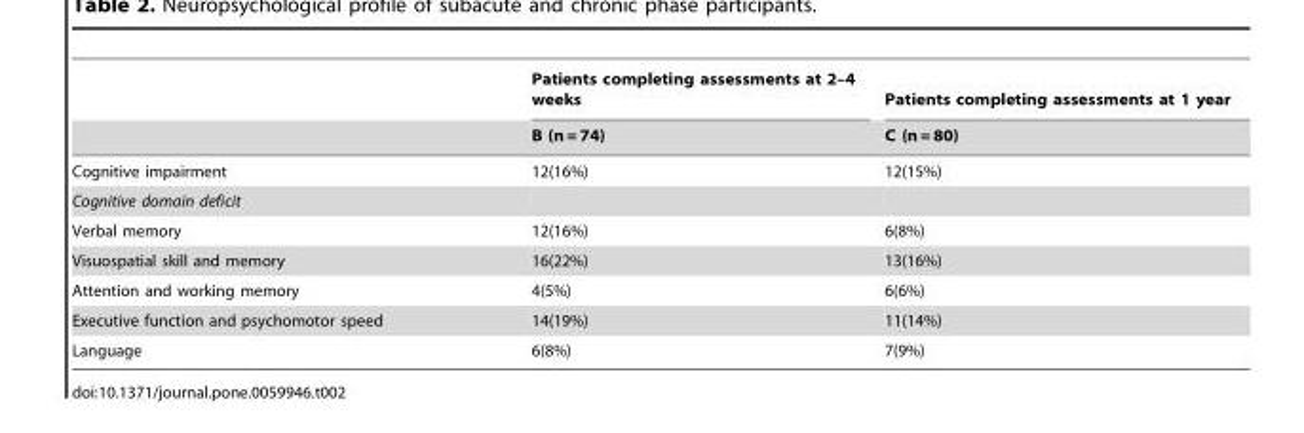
<table><thead><tr><td rowspan="2"></td><td rowspan="2">Patients completing assessments at 2–4 weeks B (n = 74)</td><td rowspan="2">Patients completing assessments at 1 year C (n = 80)</td></tr><tr></tr></thead><tbody><tr><td>Cognitive impairment</td><td>12(16%)</td><td>12(15%)</td></tr><tr><td colspan="3">Cognitive domain deficit</td></tr><tr><td>Verbal memory</td><td>12(16%)</td><td>6(8%)</td></tr><tr><td>Visuospatial skill and memory</td><td>16(22%)</td><td>13(16%)</td></tr><tr><td>Attention and working memory</td><td>4(5%)</td><td>6(6%)</td></tr><tr><td>Executive function and psychomotor speed</td><td>14(19%)</td><td>11(14%)</td></tr><tr><td>Language</td><td>6(8%)</td><td>7(9%)</td></tr></tbody></table>